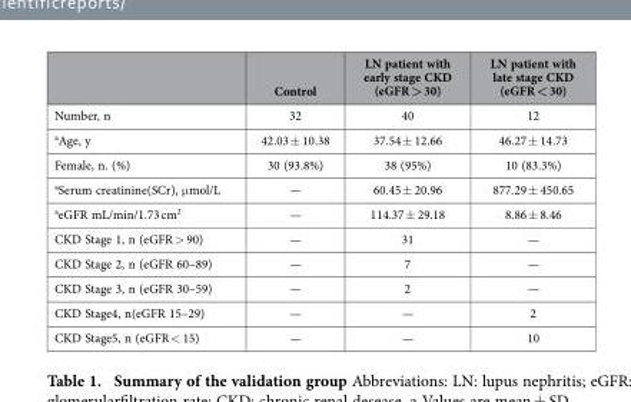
<table><thead><tr><td></td><td>Control</td><td>LN patient with early stage CKD (eGFR &gt; 30)</td><td>LN patient with late stage CKD (eGFR &lt; 30)</td></tr></thead><tbody><tr><td>Number, n</td><td>32</td><td>40</td><td>12</td></tr><tr><td>aAge, y</td><td>42.03 ± 10.38</td><td>37.54 ± 12.66</td><td>46.27 ± 14.73</td></tr><tr><td>Female, n. (%)</td><td>30 (93.8%)</td><td>38 (95%)</td><td>10 (83.3%)</td></tr><tr><td>aSerum creatinine(SCr), μ mol/L</td><td>—</td><td>60.45 ± 20.96</td><td>877.29 ± 450.65</td></tr><tr><td>aeGFR mL/min/1.73 cm<sup>2</sup></td><td>—</td><td>114.37 ± 29.18</td><td>8.86 ± 8.46</td></tr><tr><td>CKD Stage 1, n (eGFR &gt; 90)</td><td>—</td><td>31</td><td>—</td></tr><tr><td>CKD Stage 2, n (eGFR 60–89)</td><td>—</td><td>7</td><td>—</td></tr><tr><td>CKD Stage 3, n (eGFR 30–59)</td><td>—</td><td>2</td><td>—</td></tr><tr><td>CKD Stage4, n(eGFR 15–29)</td><td>—</td><td>—</td><td>2</td></tr><tr><td>CKD Stage5, n (eGFR &lt; 15)</td><td>—</td><td>—</td><td>10</td></tr></tbody></table>